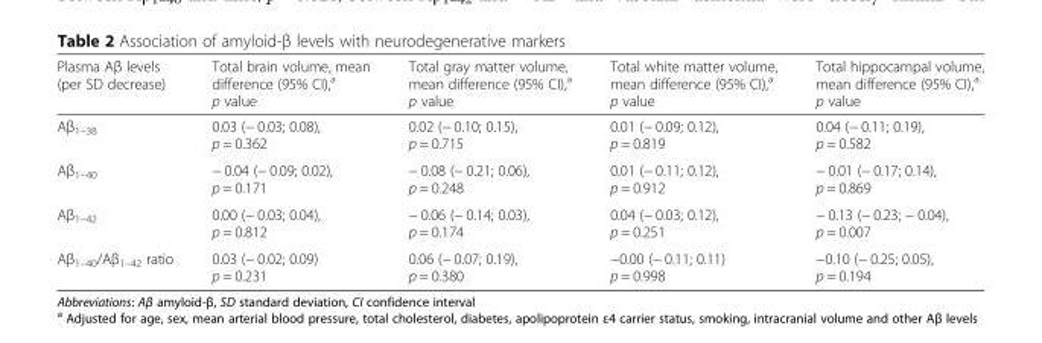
<table><thead><tr><td>Plasma Aβ levels (per SD decrease)</td><td>Total brain volume, mean difference (95% CI),<sup>a</sup> p value</td><td>Total gray matter volume, mean difference (95% CI),<sup>a</sup> p value</td><td>Total white matter volume, mean difference (95% CI),<sup>a</sup> p value</td><td>Total hippocampal volume, mean difference (95% CI),<sup>a</sup> p value</td></tr></thead><tbody><tr><td>Aβ<sub>1–38</sub></td><td>0.03 (− 0.03; 0.08), p = 0.362</td><td>0.02 (− 0.10; 0.15), p = 0.715</td><td>0.01 (− 0.09; 0.12), p = 0.819</td><td>0.04 (− 0.11; 0.19), p = 0.582</td></tr><tr><td>Aβ<sub>1–40</sub></td><td>− 0.04 (− 0.09; 0.02), p = 0.171</td><td>− 0.08 (− 0.21; 0.06), p = 0.248</td><td>0.01 (− 0.11; 0.12), p = 0.912</td><td>− 0.01 (− 0.17; 0.14), p = 0.869</td></tr><tr><td>Aβ<sub>1–42</sub></td><td>0.00 (− 0.03; 0.04), p = 0.812</td><td>− 0.06 (− 0.14; 0.03), p = 0.174</td><td>0.04 (− 0.03; 0.12), p = 0.251</td><td>− 0.13 (− 0.23; − 0.04), p = 0.007</td></tr><tr><td>Aβ<sub>1–40</sub>/Aβ<sub>1–42</sub> ratio</td><td>0.03 (− 0.02; 0.09) p = 0.231</td><td>0.06 (− 0.07; 0.19), p = 0.380</td><td>−0.00 (− 0.11; 0.11) p = 0.998</td><td>−0.10 (− 0.25; 0.05), p = 0.194</td></tr></tbody></table>